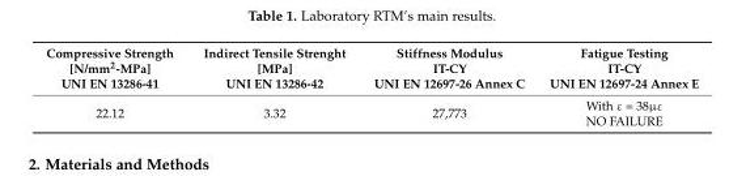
<table><thead><tr><td>Compressive Strength [N/mm<sup>2</sup>-MPa] UNI EN 13286-41</td><td>Indirect Tensile Strenght [MPa] UNI EN 13286-42</td><td>Stiffness Modulus IT-CY UNI EN 12697-26 Annex C</td><td>Fatigue Testing IT-CY UNI EN 12697-24 Annex E</td></tr></thead><tbody><tr><td>22.12</td><td>3.32</td><td>27,773</td><td>With ε = 38µε NO FAILURE</td></tr></tbody></table>